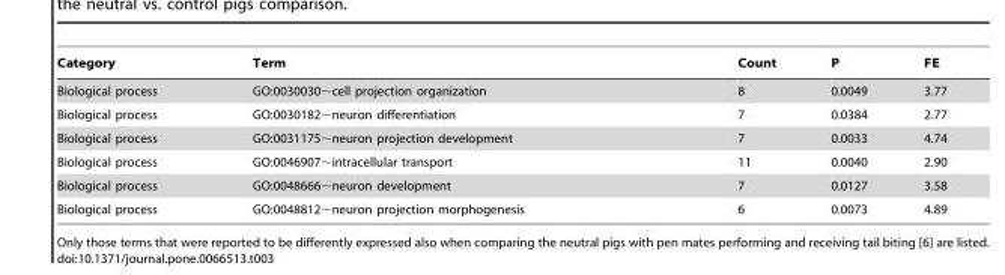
<table><thead><tr><td>Category</td><td>Term</td><td>Count</td><td>P</td><td>FE</td></tr></thead><tbody><tr><td>Biological process</td><td>GO:0030030∼cell projection organization</td><td>8</td><td>0.0049</td><td>3.77</td></tr><tr><td>Biological process</td><td>GO:0030182∼neuron differentiation</td><td>7</td><td>0.0384</td><td>2.77</td></tr><tr><td>Biological process</td><td>GO:0031175∼neuron projection development</td><td>7</td><td>0.0033</td><td>4.74</td></tr><tr><td>Biological process</td><td>GO:0046907∼intracellular transport</td><td>11</td><td>0.0040</td><td>2.90</td></tr><tr><td>Biological process</td><td>GO:0048666∼neuron development</td><td>7</td><td>0.0127</td><td>3.58</td></tr><tr><td>Biological process</td><td>GO:0048812∼neuron projection morphogenesis</td><td>6</td><td>0.0073</td><td>4.89</td></tr></tbody></table>